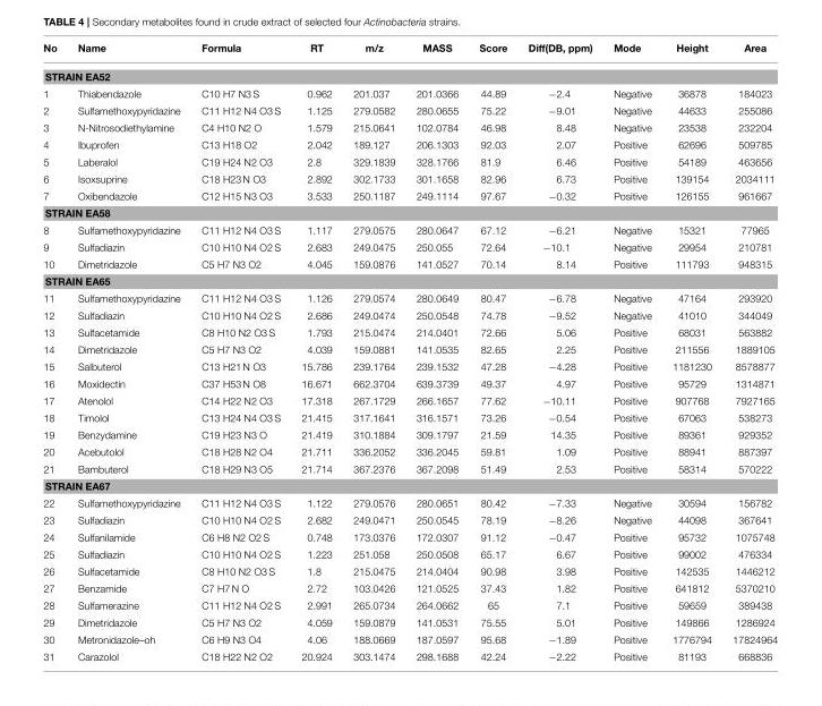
<table><thead><tr><td>No</td><td>Name</td><td>Formula</td><td>RT</td><td>m/z</td><td>MASS</td><td>Score</td><td>Diff(DB, ppm)</td><td>Mode</td><td>Height</td><td>Area</td></tr></thead><tbody><tr><td colspan="11">STRAIN EA52</td></tr><tr><td>1</td><td>Thiabendazole</td><td>C10 H7 N3 S</td><td>0.962</td><td>201.037</td><td>201.0366</td><td>44.89</td><td>−2.4</td><td>Negative</td><td>36878</td><td>184023</td></tr><tr><td>2</td><td>Sulfamethoxypyridazine</td><td>C11 H12 N4 O3 S</td><td>1.125</td><td>279.0582</td><td>280.0655</td><td>75.22</td><td>−9.01</td><td>Negative</td><td>44633</td><td>255086</td></tr><tr><td>3</td><td>N-Nitrosodiethylamine</td><td>C4 H10 N2 O</td><td>1.579</td><td>215.0641</td><td>102.0784</td><td>46.98</td><td>8.48</td><td>Negative</td><td>23538</td><td>232204</td></tr><tr><td>4</td><td>Ibuprofen</td><td>C13 H18 O2</td><td>2.042</td><td>189.127</td><td>206.1303</td><td>92.03</td><td>2.07</td><td>Positive</td><td>62696</td><td>509785</td></tr><tr><td>5</td><td>Laberalol</td><td>C19 H24 N2 O3</td><td>2.8</td><td>329.1839</td><td>328.1766</td><td>81.9</td><td>6.46</td><td>Positive</td><td>54189</td><td>463656</td></tr><tr><td>6</td><td>Isoxsuprine</td><td>C18 H23 N O3</td><td>2.892</td><td>302.1733</td><td>301.1658</td><td>82.96</td><td>6.73</td><td>Positive</td><td>139154</td><td>2034111</td></tr><tr><td>7</td><td>Oxibendazole</td><td>C12 H15 N3 O3</td><td>3.533</td><td>250.1187</td><td>249.1114</td><td>97.67</td><td>−0.32</td><td>Positive</td><td>126155</td><td>961667</td></tr><tr><td colspan="11">STRAIN EA58</td></tr><tr><td>8</td><td>Sulfamethoxypyridazine</td><td>C11 H12 N4 O3 S</td><td>1.117</td><td>279.0575</td><td>280.0647</td><td>67.12</td><td>−6.21</td><td>Negative</td><td>15321</td><td>77965</td></tr><tr><td>9</td><td>Sulfadiazin</td><td>C10 H10 N4 O2 S</td><td>2.683</td><td>249.0475</td><td>250.055</td><td>72.64</td><td>−10.1</td><td>Negative</td><td>29954</td><td>210781</td></tr><tr><td>10</td><td>Dimetridazole</td><td>C5 H7 N3 O2</td><td>4.045</td><td>159.0876</td><td>141.0527</td><td>70.14</td><td>8.14</td><td>Positive</td><td>111793</td><td>948315</td></tr><tr><td colspan="11">STRAIN EA65</td></tr><tr><td>11</td><td>Sulfamethoxypyridazine</td><td>C11 H12 N4 O3 S</td><td>1.126</td><td>279.0574</td><td>280.0649</td><td>80.47</td><td>−6.78</td><td>Negative</td><td>47164</td><td>293920</td></tr><tr><td>12</td><td>Sulfadiazin</td><td>C10 H10 N4 O2 S</td><td>2.686</td><td>249.0474</td><td>250.0548</td><td>74.78</td><td>−9.52</td><td>Negative</td><td>41010</td><td>344049</td></tr><tr><td>13</td><td>Sulfacetamide</td><td>C8 H10 N2 O3 S</td><td>1.793</td><td>215.0474</td><td>214.0401</td><td>72.66</td><td>5.06</td><td>Positive</td><td>68031</td><td>563882</td></tr><tr><td>14</td><td>Dimetridazole</td><td>C5 H7 N3 O2</td><td>4.039</td><td>159.0881</td><td>141.0535</td><td>82.65</td><td>2.25</td><td>Positive</td><td>211556</td><td>1889105</td></tr><tr><td>15</td><td>Salbuterol</td><td>C13 H21 N O3</td><td>15.786</td><td>239.1764</td><td>239.1532</td><td>47.28</td><td>−4.28</td><td>Positive</td><td>1181230</td><td>8578877</td></tr><tr><td>16</td><td>Moxidectin</td><td>C37 H53 N O8</td><td>16.671</td><td>662.3704</td><td>639.3739</td><td>49.37</td><td>4.97</td><td>Positive</td><td>95729</td><td>1314871</td></tr><tr><td>17</td><td>Atenolol</td><td>C14 H22 N2 O3</td><td>17.318</td><td>267.1729</td><td>266.1657</td><td>77.62</td><td>−10.11</td><td>Positive</td><td>907768</td><td>7927165</td></tr><tr><td>18</td><td>Timolol</td><td>C13 H24 N4 O3 S</td><td>21.415</td><td>317.1641</td><td>316.1571</td><td>73.26</td><td>−0.54</td><td>Positive</td><td>67063</td><td>538273</td></tr><tr><td>19</td><td>Benzydamine</td><td>C19 H23 N3 O</td><td>21.419</td><td>310.1884</td><td>309.1797</td><td>21.59</td><td>14.35</td><td>Positive</td><td>89361</td><td>929352</td></tr><tr><td>20</td><td>Acebutolol</td><td>C18 H28 N2 O4</td><td>21.711</td><td>336.2052</td><td>336.2045</td><td>59.81</td><td>1.09</td><td>Positive</td><td>88941</td><td>887397</td></tr><tr><td>21</td><td>Bambuterol</td><td>C18 H29 N3 O5</td><td>21.714</td><td>367.2376</td><td>367.2098</td><td>51.49</td><td>2.53</td><td>Positive</td><td>58314</td><td>570222</td></tr><tr><td colspan="11">STRAIN EA67</td></tr><tr><td>22</td><td>Sulfamethoxypyridazine</td><td>C11 H12 N4 O3 S</td><td>1.122</td><td>279.0576</td><td>280.0651</td><td>80.42</td><td>−7.33</td><td>Negative</td><td>30594</td><td>156782</td></tr><tr><td>23</td><td>Sulfadiazin</td><td>C10 H10 N4 O2 S</td><td>2.682</td><td>249.0471</td><td>250.0545</td><td>78.19</td><td>−8.26</td><td>Negative</td><td>44098</td><td>367641</td></tr><tr><td>24</td><td>Sulfanilamide</td><td>C6 H8 N2 O2 S</td><td>0.748</td><td>173.0376</td><td>172.0307</td><td>91.12</td><td>−0.47</td><td>Positive</td><td>95732</td><td>1075748</td></tr><tr><td>25</td><td>Sulfadiazin</td><td>C10 H10 N4 O2 S</td><td>1.223</td><td>251.058</td><td>250.0508</td><td>65.17</td><td>6.67</td><td>Positive</td><td>99002</td><td>476334</td></tr><tr><td>26</td><td>Sulfacetamide</td><td>C8 H10 N2 O3 S</td><td>1.8</td><td>215.0475</td><td>214.0404</td><td>90.98</td><td>3.98</td><td>Positive</td><td>142535</td><td>1446212</td></tr><tr><td>27</td><td>Benzamide</td><td>C7 H7 N O</td><td>2.72</td><td>103.0426</td><td>121.0525</td><td>37.43</td><td>1.82</td><td>Positive</td><td>641812</td><td>5370210</td></tr><tr><td>28</td><td>Sulfamerazine</td><td>C11 H12 N4 O2 S</td><td>2.991</td><td>265.0734</td><td>264.0662</td><td>65</td><td>7.1</td><td>Positive</td><td>59659</td><td>389438</td></tr><tr><td>29</td><td>Dimetridazole</td><td>C5 H7 N3 O2</td><td>4.059</td><td>159.0879</td><td>141.0531</td><td>75.55</td><td>5.01</td><td>Positive</td><td>149866</td><td>1286924</td></tr><tr><td>30</td><td>Metronidazole–oh</td><td>C6 H9 N3 O4</td><td>4.06</td><td>188.0669</td><td>187.0597</td><td>95.68</td><td>−1.89</td><td>Positive</td><td>1776794</td><td>17824964</td></tr><tr><td>31</td><td>Carazolol</td><td>C18 H22 N2 O2</td><td>20.924</td><td>303.1474</td><td>298.1688</td><td>42.24</td><td>−2.22</td><td>Positive</td><td>81193</td><td>668836</td></tr></tbody></table>